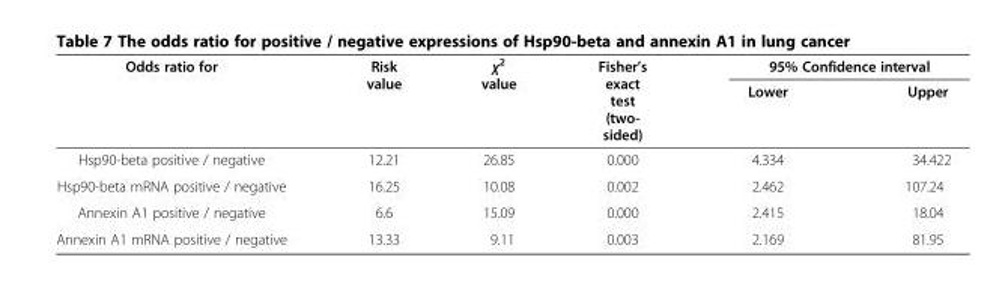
<table><thead><tr><td rowspan="2">Odds ratio for</td><td rowspan="2">Risk value</td><td rowspan="2">χ<sup>2</sup> value</td><td rowspan="2">Fisher’s exact test (two- sided)</td><td colspan="2">95% Confidence interval</td></tr><tr><td>Lower</td><td>Upper</td></tr></thead><tbody><tr><td>Hsp90-beta positive / negative</td><td>12.21</td><td>26.85</td><td>0.000</td><td>4.334</td><td>34.422</td></tr><tr><td>Hsp90-beta mRNA positive / negative</td><td>16.25</td><td>10.08</td><td>0.002</td><td>2.462</td><td>107.24</td></tr><tr><td>Annexin A1 positive / negative</td><td>6.6</td><td>15.09</td><td>0.000</td><td>2.415</td><td>18.04</td></tr><tr><td>Annexin A1 mRNA positive / negative</td><td>13.33</td><td>9.11</td><td>0.003</td><td>2.169</td><td>81.95</td></tr></tbody></table>